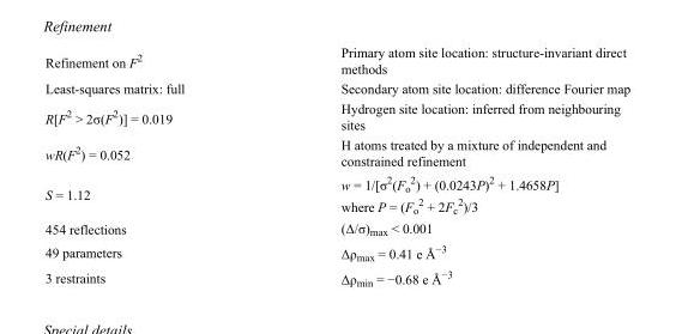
<table><tbody><tr><td>Refinement on F<sup>2</sup></td><td>Primary atom site location: structure-invariant direct methods</td></tr><tr><td>Least-squares matrix: full</td><td>Secondary atom site location: difference Fourier map</td></tr><tr><td>R[F<sup>2</sup> &gt; 2σ(F<sup>2</sup>)] = 0.019</td><td>Hydrogen site location: inferred from neighbouring sites</td></tr><tr><td>wR(F<sup>2</sup>) = 0.052</td><td>H atoms treated by a mixture of independent and constrained refinement</td></tr><tr><td>S = 1.12</td><td>w = 1/[σ<sup>2</sup>(F<sub>o</sub> <sup>2</sup>) + (0.0243P)<sup>2</sup> + 1.4658P] where P = (F<sub>o</sub> <sup>2</sup> + 2F<sub>c</sub> <sup>2</sup>)/3</td></tr><tr><td>454 reflections</td><td>(Δ/σ)<sub>max</sub> &lt; 0.001</td></tr><tr><td>49 parameters</td><td>Δρ<sub>max</sub> = 0.41 e Å<sup>−3</sup></td></tr><tr><td>3 restraints</td><td>Δρ<sub>min</sub> = −0.68 e Å<sup>−3</sup></td></tr></tbody></table>